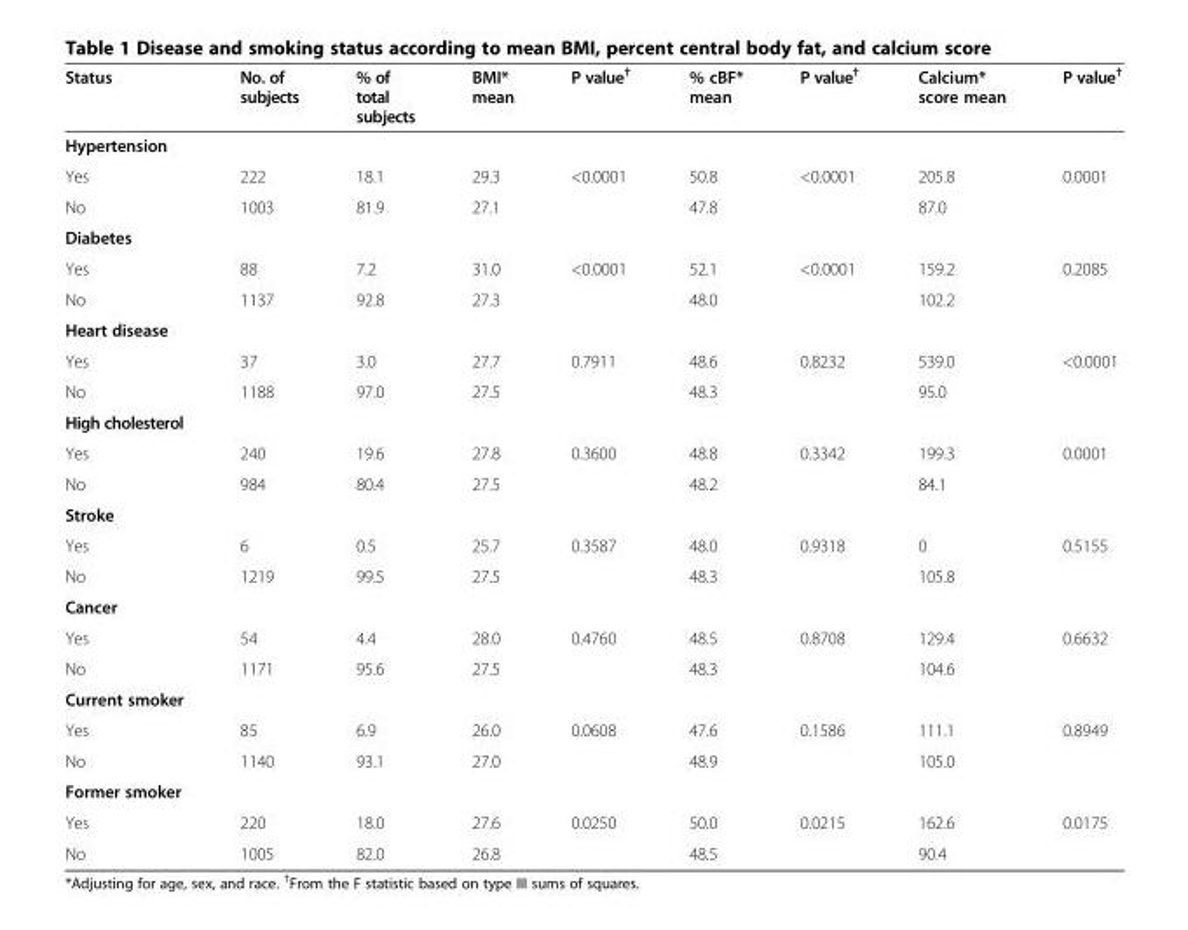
<table><thead><tr><td>Status</td><td>No. of subjects</td><td>% of total subjects</td><td>BMI* mean</td><td>P value<sup>†</sup></td><td>% cBF* mean</td><td>P value<sup>†</sup></td><td>Calcium* score mean</td><td>P value<sup>†</sup></td></tr></thead><tbody><tr><td colspan="9">Hypertension</td></tr><tr><td>Yes</td><td>222</td><td>18.1</td><td>29.3</td><td>&lt;0.0001</td><td>50.8</td><td>&lt;0.0001</td><td>205.8</td><td>0.0001</td></tr><tr><td>No</td><td>1003</td><td>81.9</td><td>27.1</td><td></td><td>47.8</td><td></td><td>87.0</td><td></td></tr><tr><td colspan="9">Diabetes</td></tr><tr><td>Yes</td><td>88</td><td>7.2</td><td>31.0</td><td>&lt;0.0001</td><td>52.1</td><td>&lt;0.0001</td><td>159.2</td><td>0.2085</td></tr><tr><td>No</td><td>1137</td><td>92.8</td><td>27.3</td><td></td><td>48.0</td><td></td><td>102.2</td><td></td></tr><tr><td colspan="9">Heart disease</td></tr><tr><td>Yes</td><td>37</td><td>3.0</td><td>27.7</td><td>0.7911</td><td>48.6</td><td>0.8232</td><td>539.0</td><td>&lt;0.0001</td></tr><tr><td>No</td><td>1188</td><td>97.0</td><td>27.5</td><td></td><td>48.3</td><td></td><td>95.0</td><td></td></tr><tr><td colspan="9">High cholesterol</td></tr><tr><td>Yes</td><td>240</td><td>19.6</td><td>27.8</td><td>0.3600</td><td>48.8</td><td>0.3342</td><td>199.3</td><td>0.0001</td></tr><tr><td>No</td><td>984</td><td>80.4</td><td>27.5</td><td></td><td>48.2</td><td></td><td>84.1</td><td></td></tr><tr><td colspan="9">Stroke</td></tr><tr><td>Yes</td><td>6</td><td>0.5</td><td>25.7</td><td>0.3587</td><td>48.0</td><td>0.9318</td><td>0</td><td>0.5155</td></tr><tr><td>No</td><td>1219</td><td>99.5</td><td>27.5</td><td></td><td>48.3</td><td></td><td>105.8</td><td></td></tr><tr><td colspan="9">Cancer</td></tr><tr><td>Yes</td><td>54</td><td>4.4</td><td>28.0</td><td>0.4760</td><td>48.5</td><td>0.8708</td><td>129.4</td><td>0.6632</td></tr><tr><td>No</td><td>1171</td><td>95.6</td><td>27.5</td><td></td><td>48.3</td><td></td><td>104.6</td><td></td></tr><tr><td colspan="9">Current smoker</td></tr><tr><td>Yes</td><td>85</td><td>6.9</td><td>26.0</td><td>0.0608</td><td>47.6</td><td>0.1586</td><td>111.1</td><td>0.8949</td></tr><tr><td>No</td><td>1140</td><td>93.1</td><td>27.0</td><td></td><td>48.9</td><td></td><td>105.0</td><td></td></tr><tr><td colspan="9">Former smoker</td></tr><tr><td>Yes</td><td>220</td><td>18.0</td><td>27.6</td><td>0.0250</td><td>50.0</td><td>0.0215</td><td>162.6</td><td>0.0175</td></tr><tr><td>No</td><td>1005</td><td>82.0</td><td>26.8</td><td></td><td>48.5</td><td></td><td>90.4</td><td></td></tr></tbody></table>